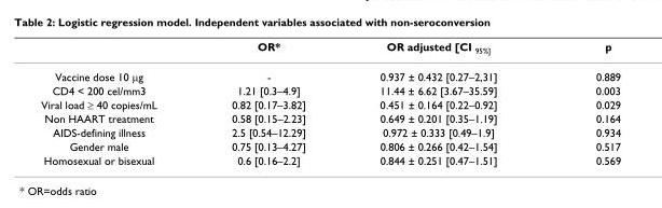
<table><thead><tr><td></td><td>OR*</td><td>OR adjusted [CI <sub>95%]</sub></td><td>p</td></tr></thead><tbody><tr><td>Vaccine dose 10 µg</td><td>-</td><td>0.937 ± 0.432 [0.27–2,31]</td><td>0.889</td></tr><tr><td>CD4 &lt; 200 cel/mm3</td><td>1.21 [0.3–4.9]</td><td>11.44 ± 6.62 [3.67–35.59]</td><td>0.003</td></tr><tr><td>Viral load ≥ 40 copies/mL</td><td>0.82 [0.17–3.82]</td><td>0.451 ± 0.164 [0.22–0.92]</td><td>0.029</td></tr><tr><td>Non HAART treatment</td><td>0.58 [0.15–2.23]</td><td>0.649 ± 0.201 [0.35–1.19]</td><td>0.164</td></tr><tr><td>AIDS-defining illness</td><td>2.5 [0.54–12.29]</td><td>0.972 ± 0.333 [0.49–1.9]</td><td>0.934</td></tr><tr><td>Gender male</td><td>0.75 [0.13–4.27]</td><td>0.806 ± 0.266 [0.42–1.54]</td><td>0.517</td></tr><tr><td>Homosexual or bisexual</td><td>0.6 [0.16–2.2]</td><td>0.844 ± 0.251 [0.47–1.51]</td><td>0.569</td></tr></tbody></table>